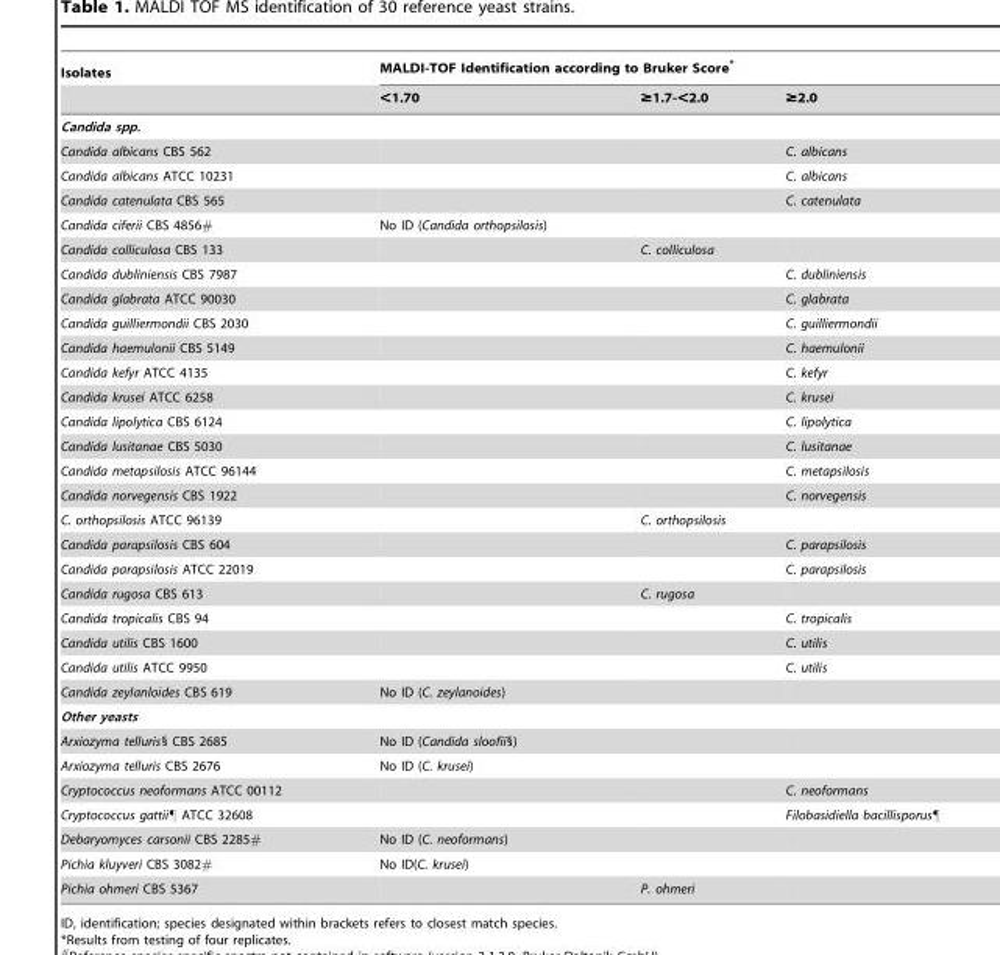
<table><thead><tr><td rowspan="2">Isolates</td><td colspan="3">MALDI-TOF Identification according to Bruker Score*</td></tr><tr><td>&lt;1.70</td><td>≥1.7-&lt;2.0</td><td>≥2.0</td></tr></thead><tbody><tr><td colspan="4">Candida spp.</td></tr><tr><td>Candida albicans CBS 562</td><td></td><td></td><td>C. albicans</td></tr><tr><td>Candida albicans ATCC 10231</td><td></td><td></td><td>C. albicans</td></tr><tr><td>Candida catenulata CBS 565</td><td></td><td></td><td>C. catenulata</td></tr><tr><td>Candida ciferii CBS 4856#</td><td>No ID (Candida orthopsilosis)</td><td></td><td></td></tr><tr><td>Candida colliculosa CBS 133</td><td></td><td>C. colliculosa</td><td></td></tr><tr><td>Candida dubliniensis CBS 7987</td><td></td><td></td><td>C. dubliniensis</td></tr><tr><td>Candida glabrata ATCC 90030</td><td></td><td></td><td>C. glabrata</td></tr><tr><td>Candida guilliermondii CBS 2030</td><td></td><td></td><td>C. guilliermondii</td></tr><tr><td>Candida haemulonii CBS 5149</td><td></td><td></td><td>C. haemulonii</td></tr><tr><td>Candida kefyr ATCC 4135</td><td></td><td></td><td>C. kefyr</td></tr><tr><td>Candida krusei ATCC 6258</td><td></td><td></td><td>C. krusei</td></tr><tr><td>Candida lipolytica CBS 6124</td><td></td><td></td><td>C. lipolytica</td></tr><tr><td>Candida lusitanae CBS 5030</td><td></td><td></td><td>C. lusitanae</td></tr><tr><td>Candida metapsilosis ATCC 96144</td><td></td><td></td><td>C. metapsilosis</td></tr><tr><td>Candida norvegensis CBS 1922</td><td></td><td></td><td>C. norvegensis</td></tr><tr><td>C. orthopsilosis ATCC 96139</td><td></td><td>C. orthopsilosis</td><td></td></tr><tr><td>Candida parapsilosis CBS 604</td><td></td><td></td><td>C. parapsilosis</td></tr><tr><td>Candida parapsilosis ATCC 22019</td><td></td><td></td><td>C. parapsilosis</td></tr><tr><td>Candida rugosa CBS 613</td><td></td><td>C. rugosa</td><td></td></tr><tr><td>Candida tropicalis CBS 94</td><td></td><td></td><td>C. tropicalis</td></tr><tr><td>Candida utilis CBS 1600</td><td></td><td></td><td>C. utilis</td></tr><tr><td>Candida utilis ATCC 9950</td><td></td><td></td><td>C. utilis</td></tr><tr><td>Candida zeylanloides CBS 619</td><td>No ID (C. zeylanoides)</td><td></td><td></td></tr><tr><td colspan="4">Other yeasts</td></tr><tr><td>Arxiozyma telluris§ CBS 2685</td><td>No ID (Candida sloofii§)</td><td></td><td></td></tr><tr><td>Arxiozyma telluris CBS 2676</td><td>No ID (C. krusei)</td><td></td><td></td></tr><tr><td>Cryptococcus neoformans ATCC 00112</td><td></td><td></td><td>C. neoformans</td></tr><tr><td>Cryptococcus gattii¶ ATCC 32608</td><td></td><td></td><td>Filobasidiella bacillisporus¶</td></tr><tr><td>Debaryomyces carsonii CBS 2285#</td><td>No ID (C. neoformans)</td><td></td><td></td></tr><tr><td>Pichia kluyveri CBS 3082#</td><td>No ID(C. krusei)</td><td></td><td></td></tr><tr><td>Pichia ohmeri CBS 5367</td><td></td><td>P. ohmeri</td><td></td></tr></tbody></table>